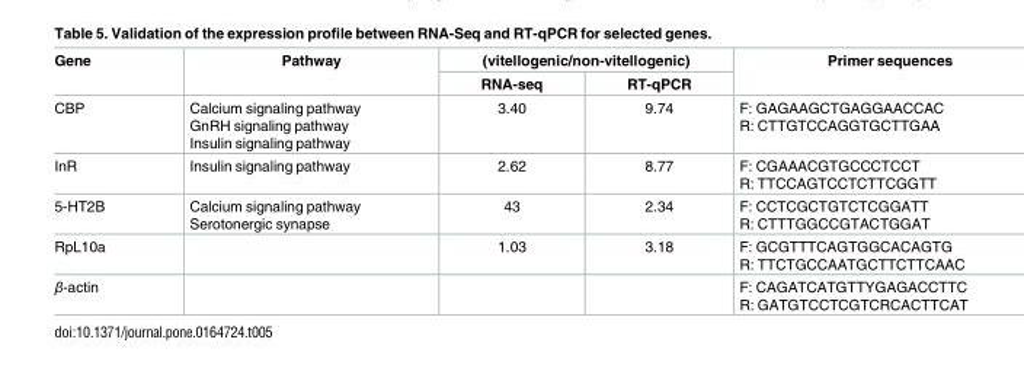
<table><thead><tr><td rowspan="2">Gene</td><td rowspan="2">Pathway</td><td colspan="2">(vitellogenic/non-vitellogenic)</td><td rowspan="2">Primer sequences</td></tr><tr><td>RNA-seq</td><td>RT-qPCR</td></tr></thead><tbody><tr><td>CBP</td><td>Calcium signaling pathway GnRH signaling pathway Insulin signaling pathway</td><td>3.40</td><td>9.74</td><td>F: GAGAAGCTGAGGAACCAC R: CTTGTCCAGGTGCTTGAA</td></tr><tr><td>InR</td><td>Insulin signaling pathway</td><td>2.62</td><td>8.77</td><td>F: CGAAACGTGCCCTCCT R: TTCCAGTCCTCTTCGGTT</td></tr><tr><td>5-HT2B</td><td>Calcium signaling pathway Serotonergic synapse</td><td>43</td><td>2.34</td><td>F: CCTCGCTGTCTCGGATT R: CTTTGGCCGTACTGGAT</td></tr><tr><td>RpL10a</td><td></td><td>1.03</td><td>3.18</td><td>F: GCGTTTCAGTGGCACAGTG R: TTCTGCCAATGCTTCTTCAAC</td></tr><tr><td>β-actin</td><td></td><td></td><td></td><td>F: CAGATCATGTTYGAGACCTTC R: GATGTCCTCGTCRCACTTCAT</td></tr></tbody></table>